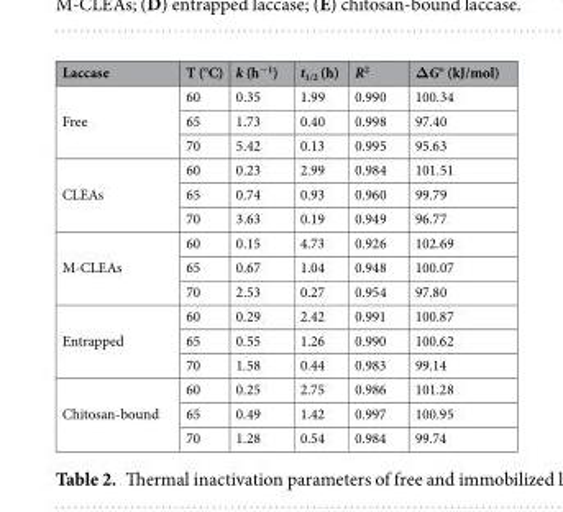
<table><thead><tr><td>Laccase</td><td>T (°C)</td><td>k (h<sup>−1</sup>)</td><td>t<sub>1/2</sub> (h)</td><td>R<sup>2</sup></td><td>ΔG° (kJ/mol)</td></tr></thead><tbody><tr><td rowspan="3">Free</td><td>60</td><td>0.35</td><td>1.99</td><td>0.990</td><td>100.34</td></tr><tr><td>65</td><td>1.73</td><td>0.40</td><td>0.998</td><td>97.40</td></tr><tr><td>70</td><td>5.42</td><td>0.13</td><td>0.995</td><td>95.63</td></tr><tr><td rowspan="3">CLEAs</td><td>60</td><td>0.23</td><td>2.99</td><td>0.984</td><td>101.51</td></tr><tr><td>65</td><td>0.74</td><td>0.93</td><td>0.960</td><td>99.79</td></tr><tr><td>70</td><td>3.63</td><td>0.19</td><td>0.949</td><td>96.77</td></tr><tr><td rowspan="3">M-CLEAs</td><td>60</td><td>0.15</td><td>4.73</td><td>0.926</td><td>102.69</td></tr><tr><td>65</td><td>0.67</td><td>1.04</td><td>0.948</td><td>100.07</td></tr><tr><td>70</td><td>2.53</td><td>0.27</td><td>0.954</td><td>97.80</td></tr><tr><td rowspan="3">Entrapped</td><td>60</td><td>0.29</td><td>2.42</td><td>0.991</td><td>100.87</td></tr><tr><td>65</td><td>0.55</td><td>1.26</td><td>0.990</td><td>100.62</td></tr><tr><td>70</td><td>1.58</td><td>0.44</td><td>0.983</td><td>99.14</td></tr><tr><td rowspan="3">Chitosan-bound</td><td>60</td><td>0.25</td><td>2.75</td><td>0.986</td><td>101.28</td></tr><tr><td>65</td><td>0.49</td><td>1.42</td><td>0.997</td><td>100.95</td></tr><tr><td>70</td><td>1.28</td><td>0.54</td><td>0.984</td><td>99.74</td></tr></tbody></table>